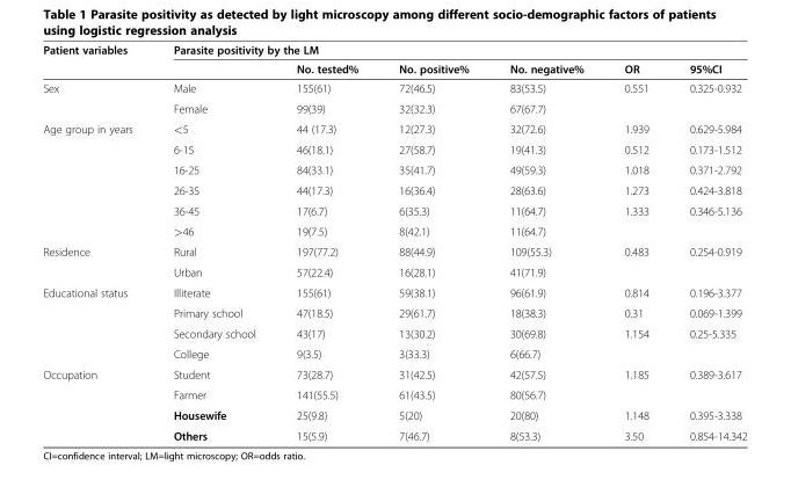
<table><thead><tr><td rowspan="2">Patient variables</td><td colspan="6">Parasite positivity by the LM</td></tr><tr><td></td><td>No. tested%</td><td>No. positive%</td><td>No. negative%</td><td>OR</td><td>95%CI</td></tr></thead><tbody><tr><td rowspan="2">Sex</td><td>Male</td><td>155(61)</td><td>72(46.5)</td><td>83(53.5)</td><td>0.551</td><td>0.325-0.932</td></tr><tr><td>Female</td><td>99(39)</td><td>32(32.3)</td><td>67(67.7)</td><td></td><td></td></tr><tr><td rowspan="6">Age group in years</td><td>&lt;5</td><td>44 (17.3)</td><td>12(27.3)</td><td>32(72.6)</td><td>1.939</td><td>0.629-5.984</td></tr><tr><td>6-15</td><td>46(18.1)</td><td>27(58.7)</td><td>19(41.3)</td><td>0.512</td><td>0.173-1.512</td></tr><tr><td>16-25</td><td>84(33.1)</td><td>35(41.7)</td><td>49(59.3)</td><td>1.018</td><td>0.371-2.792</td></tr><tr><td>26-35</td><td>44(17.3)</td><td>16(36.4)</td><td>28(63.6)</td><td>1.273</td><td>0.424-3.818</td></tr><tr><td>36-45</td><td>17(6.7)</td><td>6(35.3)</td><td>11(64.7)</td><td>1.333</td><td>0.346-5.136</td></tr><tr><td>&gt;46</td><td>19(7.5)</td><td>8(42.1)</td><td>11(64.7)</td><td></td><td></td></tr><tr><td rowspan="2">Residence</td><td>Rural</td><td>197(77.2)</td><td>88(44.9)</td><td>109(55.3)</td><td>0.483</td><td>0.254-0.919</td></tr><tr><td>Urban</td><td>57(22.4)</td><td>16(28.1)</td><td>41(71.9)</td><td></td><td></td></tr><tr><td rowspan="4">Educational status</td><td>Illiterate</td><td>155(61)</td><td>59(38.1)</td><td>96(61.9)</td><td>0.814</td><td>0.196-3.377</td></tr><tr><td>Primary school</td><td>47(18.5)</td><td>29(61.7)</td><td>18(38.3)</td><td>0.31</td><td>0.069-1.399</td></tr><tr><td>Secondary school</td><td>43(17)</td><td>13(30.2)</td><td>30(69.8)</td><td>1.154</td><td>0.25-5.335</td></tr><tr><td>College</td><td>9(3.5)</td><td>3(33.3)</td><td>6(66.7)</td><td></td><td></td></tr><tr><td rowspan="4">Occupation</td><td>Student</td><td>73(28.7)</td><td>31(42.5)</td><td>42(57.5)</td><td>1.185</td><td>0.389-3.617</td></tr><tr><td>Farmer</td><td>141(55.5)</td><td>61(43.5)</td><td>80(56.7)</td><td></td><td></td></tr><tr><td>Housewife</td><td>25(9.8)</td><td>5(20)</td><td>20(80)</td><td>1.148</td><td>0.395-3.338</td></tr><tr><td>Others</td><td>15(5.9)</td><td>7(46.7)</td><td>8(53.3)</td><td>3.50</td><td>0.854-14.342</td></tr></tbody></table>